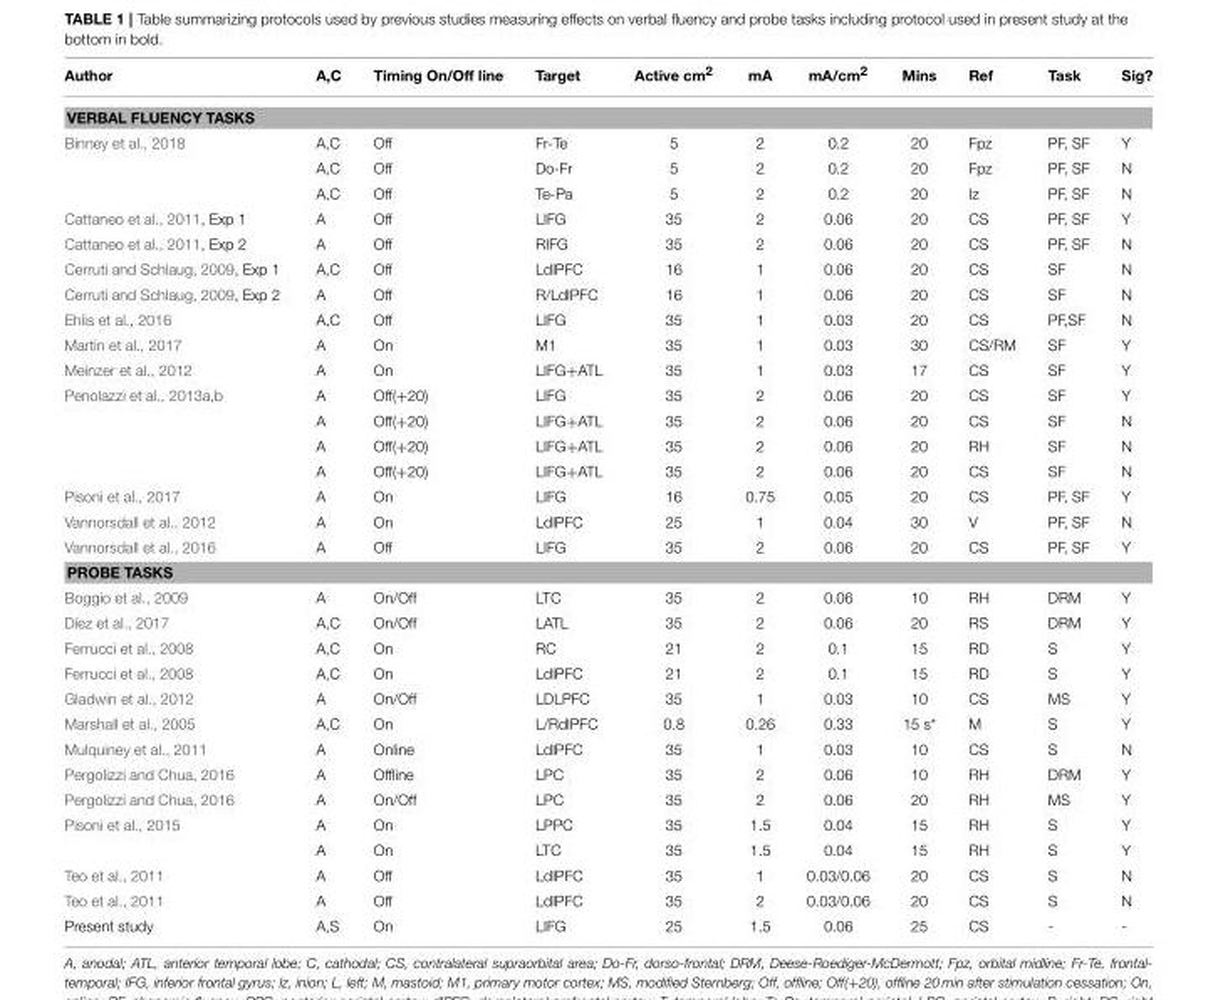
<table><thead><tr><td>Author</td><td>A,C</td><td>Timing On/Off line</td><td>Target</td><td>Active cm<sup>2</sup></td><td>mA</td><td>mA/cm<sup>2</sup></td><td>Mins</td><td>Ref</td><td>Task</td><td>Sig?</td></tr></thead><tbody><tr><td colspan="11">VERBAL FLUENCY TASKS</td></tr><tr><td rowspan="3">Binney et al., 2018</td><td>A,C</td><td>Off</td><td>Fr-Te</td><td>5</td><td>2</td><td>0.2</td><td>20</td><td>Fpz</td><td>PF, SF</td><td>Y</td></tr><tr><td>A,C</td><td>Off</td><td>Do-Fr</td><td>5</td><td>2</td><td>0.2</td><td>20</td><td>Fpz</td><td>PF, SF</td><td>N</td></tr><tr><td>A,C</td><td>Off</td><td>Te-Pa</td><td>5</td><td>2</td><td>0.2</td><td>20</td><td>Iz</td><td>PF, SF</td><td>N</td></tr><tr><td>Cattaneo et al., 2011, Exp 1</td><td>A</td><td>Off</td><td>LIFG</td><td>35</td><td>2</td><td>0.06</td><td>20</td><td>CS</td><td>PF, SF</td><td>Y</td></tr><tr><td>Cattaneo et al., 2011, Exp 2</td><td>A</td><td>Off</td><td>RIFG</td><td>35</td><td>2</td><td>0.06</td><td>20</td><td>CS</td><td>PF, SF</td><td>N</td></tr><tr><td>Cerruti and Schlaug, 2009, Exp 1</td><td>A,C</td><td>Off</td><td>LdlPFC</td><td>16</td><td>1</td><td>0.06</td><td>20</td><td>CS</td><td>SF</td><td>N</td></tr><tr><td>Cerruti and Schlaug, 2009, Exp 2</td><td>A</td><td>Off</td><td>R/LdlPFC</td><td>16</td><td>1</td><td>0.06</td><td>20</td><td>CS</td><td>SF</td><td>N</td></tr><tr><td>Ehlis et al., 2016</td><td>A,C</td><td>Off</td><td>LIFG</td><td>35</td><td>1</td><td>0.03</td><td>20</td><td>CS</td><td>PF,SF</td><td>N</td></tr><tr><td>Martin et al., 2017</td><td>A</td><td>On</td><td>M1</td><td>35</td><td>1</td><td>0.03</td><td>30</td><td>CS/RM</td><td>SF</td><td>Y</td></tr><tr><td>Meinzer et al., 2012</td><td>A</td><td>On</td><td>LIFG+ATL</td><td>35</td><td>1</td><td>0.03</td><td>17</td><td>CS</td><td>SF</td><td>Y</td></tr><tr><td rowspan="4">Penolazzi et al., 2013a,b</td><td>A</td><td>Off(+20)</td><td>LIFG</td><td>35</td><td>2</td><td>0.06</td><td>20</td><td>CS</td><td>SF</td><td>Y</td></tr><tr><td>A</td><td>Off(+20)</td><td>LIFG+ATL</td><td>35</td><td>2</td><td>0.06</td><td>20</td><td>CS</td><td>SF</td><td>N</td></tr><tr><td>A</td><td>Off(+20)</td><td>LIFG+ATL</td><td>35</td><td>2</td><td>0.06</td><td>20</td><td>RH</td><td>SF</td><td>N</td></tr><tr><td>A</td><td>Off(+20)</td><td>LIFG+ATL</td><td>35</td><td>2</td><td>0.06</td><td>20</td><td>CS</td><td>SF</td><td>N</td></tr><tr><td>Pisoni et al., 2017</td><td>A</td><td>On</td><td>LIFG</td><td>16</td><td>0.75</td><td>0.05</td><td>20</td><td>CS</td><td>PF, SF</td><td>Y</td></tr><tr><td>Vannorsdall et al., 2012</td><td>A</td><td>On</td><td>LdlPFC</td><td>25</td><td>1</td><td>0.04</td><td>30</td><td>V</td><td>PF, SF</td><td>N</td></tr><tr><td>Vannorsdall et al., 2016</td><td>A</td><td>Off</td><td>LIFG</td><td>35</td><td>2</td><td>0.06</td><td>20</td><td>CS</td><td>PF, SF</td><td>Y</td></tr><tr><td colspan="11">PROBE TASKS</td></tr><tr><td>Boggio et al., 2009</td><td>A</td><td>On/Off</td><td>LTC</td><td>35</td><td>2</td><td>0.06</td><td>10</td><td>RH</td><td>DRM</td><td>Y</td></tr><tr><td>Díez et al., 2017</td><td>A,C</td><td>On/Off</td><td>LATL</td><td>35</td><td>2</td><td>0.06</td><td>20</td><td>RS</td><td>DRM</td><td>Y</td></tr><tr><td>Ferrucci et al., 2008</td><td>A,C</td><td>On</td><td>RC</td><td>21</td><td>2</td><td>0.1</td><td>15</td><td>RD</td><td>S</td><td>Y</td></tr><tr><td>Ferrucci et al., 2008</td><td>A,C</td><td>On</td><td>LdlPFC</td><td>21</td><td>2</td><td>0.1</td><td>15</td><td>RD</td><td>S</td><td>Y</td></tr><tr><td>Gladwin et al., 2012</td><td>A</td><td>On/Off</td><td>LDLPFC</td><td>35</td><td>1</td><td>0.03</td><td>10</td><td>CS</td><td>MS</td><td>Y</td></tr><tr><td>Marshall et al., 2005</td><td>A,C</td><td>On</td><td>L/RdlPFC</td><td>0.8</td><td>0.26</td><td>0.33</td><td>15 s*</td><td>M</td><td>S</td><td>Y</td></tr><tr><td>Mulquiney et al., 2011</td><td>A</td><td>Online</td><td>LdlPFC</td><td>35</td><td>1</td><td>0.03</td><td>10</td><td>CS</td><td>S</td><td>N</td></tr><tr><td>Pergolizzi and Chua, 2016</td><td>A</td><td>Offline</td><td>LPC</td><td>35</td><td>2</td><td>0.06</td><td>10</td><td>RH</td><td>DRM</td><td>Y</td></tr><tr><td>Pergolizzi and Chua, 2016</td><td>A</td><td>On/Off</td><td>LPC</td><td>35</td><td>2</td><td>0.06</td><td>20</td><td>RH</td><td>MS</td><td>Y</td></tr><tr><td rowspan="2">Pisoni et al., 2015</td><td>A</td><td>On</td><td>LPPC</td><td>35</td><td>1.5</td><td>0.04</td><td>15</td><td>RH</td><td>S</td><td>Y</td></tr><tr><td>A</td><td>On</td><td>LTC</td><td>35</td><td>1.5</td><td>0.04</td><td>15</td><td>RH</td><td>S</td><td>Y</td></tr><tr><td>Teo et al., 2011</td><td>A</td><td>Off</td><td>LdlPFC</td><td>35</td><td>1</td><td>0.03/0.06</td><td>20</td><td>CS</td><td>S</td><td>N</td></tr><tr><td>Teo et al., 2011</td><td>A</td><td>Off</td><td>LdlPFC</td><td>35</td><td>2</td><td>0.03/0.06</td><td>20</td><td>CS</td><td>S</td><td>N</td></tr><tr><td>Present study</td><td>A,S</td><td>On</td><td>LIFG</td><td>25</td><td>1.5</td><td>0.06</td><td>25</td><td>CS</td><td>-</td><td>-</td></tr></tbody></table>